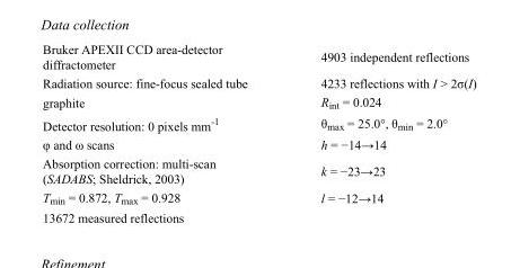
<table><tbody><tr><td>Bruker APEXII CCD area-detector diffractometer</td><td>4903 independent reflections</td></tr><tr><td>Radiation source: fine-focus sealed tube</td><td>4233 reflections with I &gt; 2σ(I)</td></tr><tr><td>graphite</td><td>R<sub>int</sub> = 0.024</td></tr><tr><td>Detector resolution: 0 pixels mm<sup>-1</sup></td><td>θ<sub>max</sub> = 25.0°, θ<sub>min</sub> = 2.0°</td></tr><tr><td>φ and ω scans</td><td>h = −14→14</td></tr><tr><td>Absorption correction: multi-scan (SADABS; Sheldrick, 2003)</td><td>k = −23→23</td></tr><tr><td>T<sub>min</sub> = 0.872, T<sub>max</sub> = 0.928</td><td>l = −12→14</td></tr><tr><td>13672 measured reflections</td><td></td></tr></tbody></table>